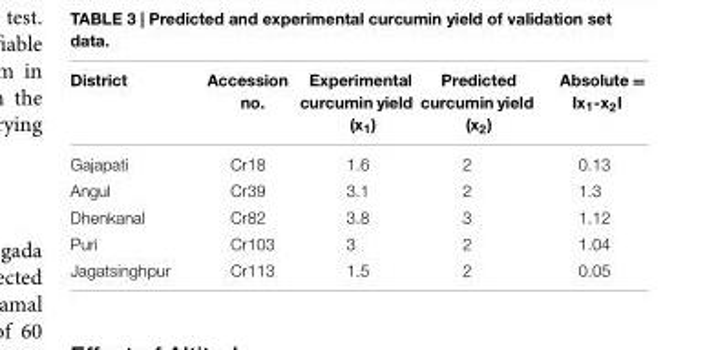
<table><thead><tr><td>District</td><td>Accession no.</td><td>Experimental curcumin yield (x<sub>1</sub>)</td><td>Predicted curcumin yield (x<sub>2</sub>)</td><td>Absolute = Ix<sub>1</sub>-x<sub>2</sub>I</td></tr></thead><tbody><tr><td>Gajapati</td><td>Cr18</td><td>1.6</td><td>2</td><td>0.13</td></tr><tr><td>Angul</td><td>Cr39</td><td>3.1</td><td>2</td><td>1.3</td></tr><tr><td>Dhenkanal</td><td>Cr82</td><td>3.8</td><td>3</td><td>1.12</td></tr><tr><td>Puri</td><td>Cr103</td><td>3</td><td>2</td><td>1.04</td></tr><tr><td>Jagatsinghpur</td><td>Cr113</td><td>1.5</td><td>2</td><td>0.05</td></tr></tbody></table>